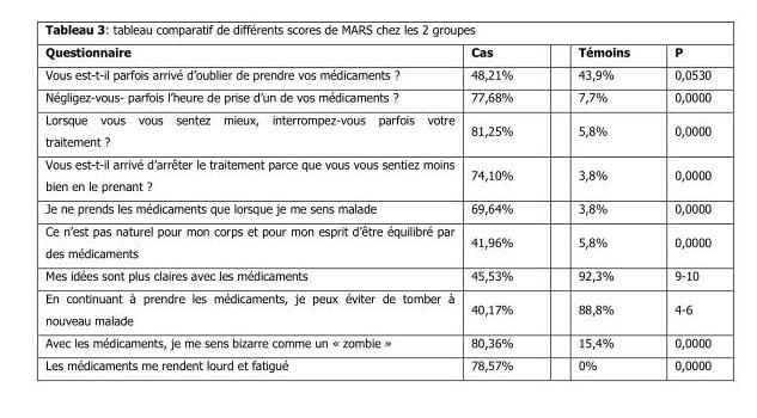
<table><thead><tr><td>Questionnaire</td><td>Cas</td><td>Témoins</td><td>P</td></tr></thead><tbody><tr><td>Vous est-t-il parfois arrivé d’oublier de prendre vos médicaments ?</td><td>48,21%</td><td>43,9%</td><td>0,0530</td></tr><tr><td>Négligez-vous- parfois l’heure de prise d’un de vos médicaments ?</td><td>77,68%</td><td>7,7%</td><td>0,0000</td></tr><tr><td>Lorsque vous vous sentez mieux, interrompez-vous parfois votre traitement ?</td><td>81,25%</td><td>5,8%</td><td>0,0000</td></tr><tr><td>Vous est-t-il arrivé d’arrêter le traitement parce que vous vous sentiez moins bien en le prenant ?</td><td>74,10%</td><td>3,8%</td><td>0,0000</td></tr><tr><td>Je ne prends les médicaments que lorsque je me sens malade</td><td>69,64%</td><td>3,8%</td><td>0,0000</td></tr><tr><td>Ce n’est pas naturel pour mon corps et pour mon esprit d’être équilibré par des médicaments</td><td>41,96%</td><td>5,8%</td><td>0,0000</td></tr><tr><td>Mes idées sont plus claires avec les médicaments</td><td>45,53%</td><td>92,3%</td><td>9-10</td></tr><tr><td>En continuant à prendre les médicaments, je peux éviter de tomber à nouveau malade</td><td>40,17%</td><td>88,8%</td><td>4-6</td></tr><tr><td>Avec les médicaments, je me sens bizarre comme un « zombie »</td><td>80,36%</td><td>15,4%</td><td>0,0000</td></tr><tr><td>Les médicaments me rendent lourd et fatigué</td><td>78,57%</td><td>0%</td><td>0,0000</td></tr></tbody></table>